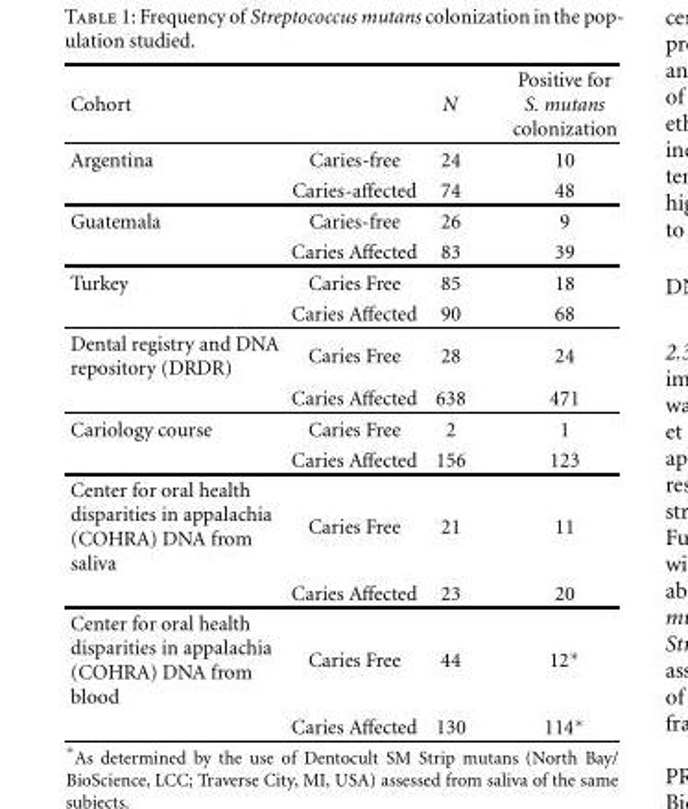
<table><thead><tr><td>Cohort</td><td></td><td>N</td><td>Positive for S. mutans colonization</td></tr></thead><tbody><tr><td rowspan="2">Argentina</td><td>Caries-free</td><td>24</td><td>10</td></tr><tr><td>Caries-affected</td><td>74</td><td>48</td></tr><tr><td rowspan="2">Guatemala</td><td>Caries-free</td><td>26</td><td>9</td></tr><tr><td>Caries Affected</td><td>83</td><td>39</td></tr><tr><td rowspan="2">Turkey</td><td>Caries Free</td><td>85</td><td>18</td></tr><tr><td>Caries Affected</td><td>90</td><td>68</td></tr><tr><td rowspan="2">Dental registry and DNA repository (DRDR)</td><td>Caries Free</td><td>28</td><td>24</td></tr><tr><td>Caries Affected</td><td>638</td><td>471</td></tr><tr><td rowspan="2">Cariology course</td><td>Caries Free</td><td>2</td><td>1</td></tr><tr><td>Caries Affected</td><td>156</td><td>123</td></tr><tr><td rowspan="2">Center for oral health disparities in appalachia (COHRA) DNA from saliva</td><td>Caries Free</td><td>21</td><td>11</td></tr><tr><td>Caries Affected</td><td>23</td><td>20</td></tr><tr><td rowspan="2">Center for oral health disparities in appalachia (COHRA) DNA from blood</td><td>Caries Free</td><td>44</td><td>12∗</td></tr><tr><td>Caries Affected</td><td>130</td><td>114∗</td></tr></tbody></table>